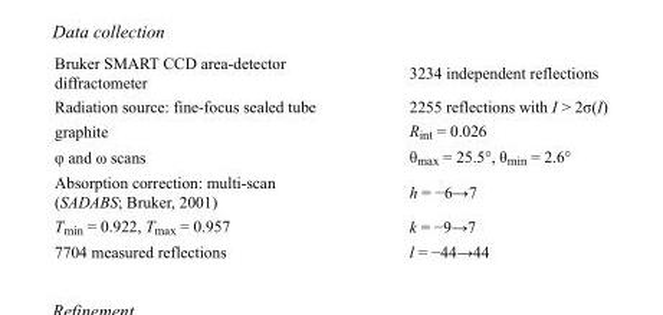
<table><tbody><tr><td>Bruker SMART CCD area-detector diffractometer</td><td>3234 independent reflections</td></tr><tr><td>Radiation source: fine-focus sealed tube</td><td>2255 reflections with I &gt; 2σ(I)</td></tr><tr><td>graphite</td><td>R<sub>int</sub> = 0.026</td></tr><tr><td>φ and ω scans</td><td>θ<sub>max</sub> = 25.5°, θ<sub>min</sub> = 2.6°</td></tr><tr><td>Absorption correction: multi-scan (SADABS; Bruker, 2001)</td><td>h = −6→7</td></tr><tr><td>T<sub>min</sub> = 0.922, T<sub>max</sub> = 0.957</td><td>k = −9→7</td></tr><tr><td>7704 measured reflections</td><td>l = −44→44</td></tr></tbody></table>